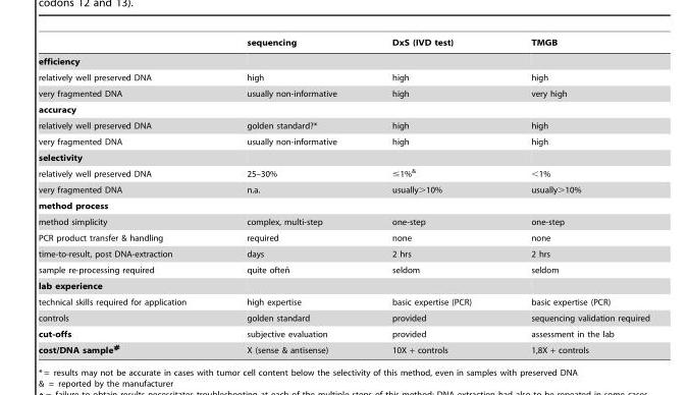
<table><thead><tr><td></td><td>sequencing</td><td>DxS (IVD test)</td><td>TMGB</td></tr></thead><tbody><tr><td colspan="4">efficiency</td></tr><tr><td>relatively well preserved DNA</td><td>high</td><td>high</td><td>high</td></tr><tr><td>very fragmented DNA</td><td>usually non-informative</td><td>high</td><td>very high</td></tr><tr><td colspan="4">accuracy</td></tr><tr><td>relatively well preserved DNA</td><td>golden standard?*</td><td>high</td><td>high</td></tr><tr><td>very fragmented DNA</td><td>usually non-informative</td><td>high</td><td>high</td></tr><tr><td colspan="4">selectivity</td></tr><tr><td>relatively well preserved DNA</td><td>25–30%</td><td>≤1%<sup>&amp;</sup></td><td>&lt;1%</td></tr><tr><td>very fragmented DNA</td><td>n.a.</td><td>usually&gt;10%</td><td>usually&gt;10%</td></tr><tr><td colspan="4">method process</td></tr><tr><td>method simplicity</td><td>complex, multi-step</td><td>one-step</td><td>one-step</td></tr><tr><td>PCR product transfer &amp; handling</td><td>required</td><td>none</td><td>none</td></tr><tr><td>time-to-result, post DNA-extraction</td><td>days</td><td>2 hrs</td><td>2 hrs</td></tr><tr><td>sample re-processing required</td><td>quite oftenˆ</td><td>seldom</td><td>seldom</td></tr><tr><td colspan="4">lab experience</td></tr><tr><td>technical skills required for application</td><td>high expertise</td><td>basic expertise (PCR)</td><td>basic expertise (PCR)</td></tr><tr><td>controls</td><td>golden standard</td><td>provided</td><td>sequencing validation required</td></tr><tr><td>cut-offs</td><td>subjective evaluation</td><td>provided</td><td>assessment in the lab</td></tr><tr><td>cost/DNA sample<sup>#</sup></td><td>X (sense &amp; antisense)</td><td>10X + controls</td><td>1,8X + controls</td></tr></tbody></table>